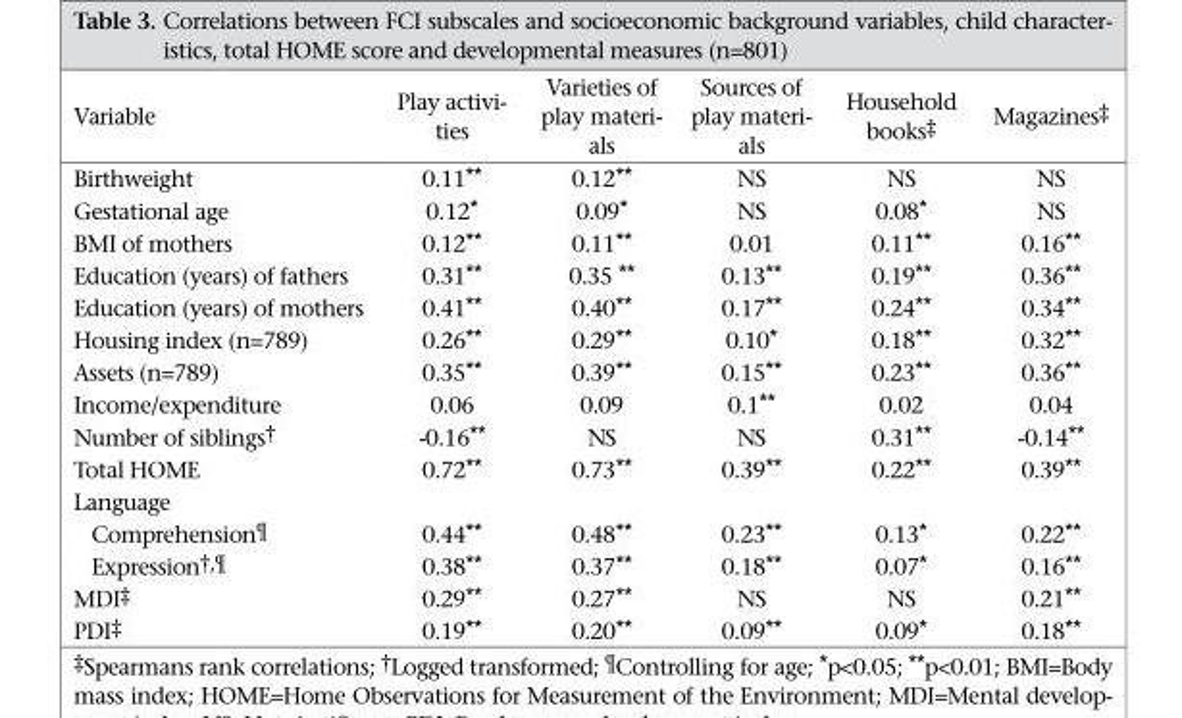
<table><thead><tr><td>Variable</td><td>Play activi- ties</td><td>Varieties of play materi- als</td><td>Sources of play materi- als</td><td>Household books‡</td><td>Magazines‡</td></tr></thead><tbody><tr><td>Birthweight</td><td>0.11**</td><td>0.12**</td><td>NS</td><td>NS</td><td>NS</td></tr><tr><td>Gestational age</td><td>0.12*</td><td>0.09*</td><td>NS</td><td>0.08*</td><td>NS</td></tr><tr><td>BMI of mothers</td><td>0.12**</td><td>0.11**</td><td>0.01</td><td>0.11**</td><td>0.16**</td></tr><tr><td>Education (years) of fathers</td><td>0.31**</td><td>0.35 **</td><td>0.13**</td><td>0.19**</td><td>0.36**</td></tr><tr><td>Education (years) of mothers</td><td>0.41**</td><td>0.40**</td><td>0.17**</td><td>0.24**</td><td>0.34**</td></tr><tr><td>Housing index (n=789)</td><td>0.26**</td><td>0.29**</td><td>0.10*</td><td>0.18**</td><td>0.32**</td></tr><tr><td>Assets (n=789)</td><td>0.35**</td><td>0.39**</td><td>0.15**</td><td>0.23**</td><td>0.36**</td></tr><tr><td>Income/expenditure</td><td>0.06</td><td>0.09</td><td>0.1**</td><td>0.02</td><td>0.04</td></tr><tr><td>Number of siblings†</td><td>-0.16**</td><td>NS</td><td>NS</td><td>0.31**</td><td>-0.14**</td></tr><tr><td>Total HOME</td><td>0.72**</td><td>0.73**</td><td>0.39**</td><td>0.22**</td><td>0.39**</td></tr><tr><td colspan="6">Language</td></tr><tr><td>Comprehension¶</td><td>0.44**</td><td>0.48**</td><td>0.23**</td><td>0.13*</td><td>0.22**</td></tr><tr><td>Expression†,¶</td><td>0.38**</td><td>0.37**</td><td>0.18**</td><td>0.07*</td><td>0.16**</td></tr><tr><td>MDI‡</td><td>0.29**</td><td>0.27**</td><td>NS</td><td>NS</td><td>0.21**</td></tr><tr><td>PDI‡</td><td>0.19**</td><td>0.20**</td><td>0.09**</td><td>0.09*</td><td>0.18**</td></tr></tbody></table>